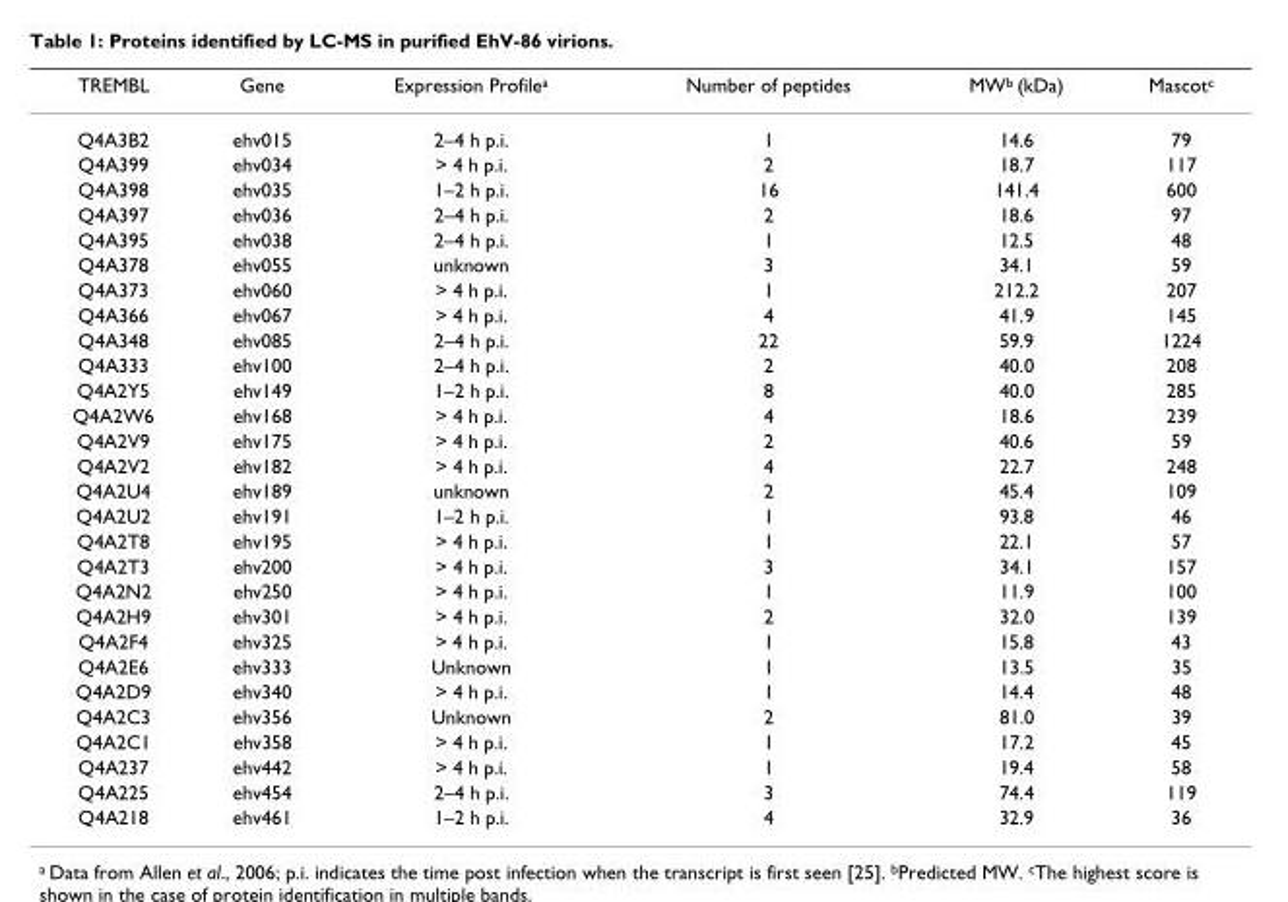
<table><thead><tr><td>TREMBL</td><td>Gene</td><td>Expression Profile<sup>a</sup></td><td>Number of peptides</td><td>MW<sup>b</sup> (kDa)</td><td>Mascot<sup>c</sup></td></tr></thead><tbody><tr><td>Q4A3B2</td><td>ehv015</td><td>2–4 h p.i.</td><td>1</td><td>14.6</td><td>79</td></tr><tr><td>Q4A399</td><td>ehv034</td><td>&gt; 4 h p.i.</td><td>2</td><td>18.7</td><td>117</td></tr><tr><td>Q4A398</td><td>ehv035</td><td>1–2 h p.i.</td><td>16</td><td>141.4</td><td>600</td></tr><tr><td>Q4A397</td><td>ehv036</td><td>2–4 h p.i.</td><td>2</td><td>18.6</td><td>97</td></tr><tr><td>Q4A395</td><td>ehv038</td><td>2–4 h p.i.</td><td>1</td><td>12.5</td><td>48</td></tr><tr><td>Q4A378</td><td>ehv055</td><td>unknown</td><td>3</td><td>34.1</td><td>59</td></tr><tr><td>Q4A373</td><td>ehv060</td><td>&gt; 4 h p.i.</td><td>1</td><td>212.2</td><td>207</td></tr><tr><td>Q4A366</td><td>ehv067</td><td>&gt; 4 h p.i.</td><td>4</td><td>41.9</td><td>145</td></tr><tr><td>Q4A348</td><td>ehv085</td><td>2–4 h p.i.</td><td>22</td><td>59.9</td><td>1224</td></tr><tr><td>Q4A333</td><td>ehv100</td><td>2–4 h p.i.</td><td>2</td><td>40.0</td><td>208</td></tr><tr><td>Q4A2Y5</td><td>ehv149</td><td>1–2 h p.i.</td><td>8</td><td>40.0</td><td>285</td></tr><tr><td>Q4A2W6</td><td>ehv168</td><td>&gt; 4 h p.i.</td><td>4</td><td>18.6</td><td>239</td></tr><tr><td>Q4A2V9</td><td>ehv175</td><td>&gt; 4 h p.i.</td><td>2</td><td>40.6</td><td>59</td></tr><tr><td>Q4A2V2</td><td>ehv182</td><td>&gt; 4 h p.i.</td><td>4</td><td>22.7</td><td>248</td></tr><tr><td>Q4A2U4</td><td>ehv189</td><td>unknown</td><td>2</td><td>45.4</td><td>109</td></tr><tr><td>Q4A2U2</td><td>ehv191</td><td>1–2 h p.i.</td><td>1</td><td>93.8</td><td>46</td></tr><tr><td>Q4A2T8</td><td>ehv195</td><td>&gt; 4 h p.i.</td><td>1</td><td>22.1</td><td>57</td></tr><tr><td>Q4A2T3</td><td>ehv200</td><td>&gt; 4 h p.i.</td><td>3</td><td>34.1</td><td>157</td></tr><tr><td>Q4A2N2</td><td>ehv250</td><td>&gt; 4 h p.i.</td><td>1</td><td>11.9</td><td>100</td></tr><tr><td>Q4A2H9</td><td>ehv301</td><td>&gt; 4 h p.i.</td><td>2</td><td>32.0</td><td>139</td></tr><tr><td>Q4A2F4</td><td>ehv325</td><td>&gt; 4 h p.i.</td><td>1</td><td>15.8</td><td>43</td></tr><tr><td>Q4A2E6</td><td>ehv333</td><td>Unknown</td><td>1</td><td>13.5</td><td>35</td></tr><tr><td>Q4A2D9</td><td>ehv340</td><td>&gt; 4 h p.i.</td><td>1</td><td>14.4</td><td>48</td></tr><tr><td>Q4A2C3</td><td>ehv356</td><td>Unknown</td><td>2</td><td>81.0</td><td>39</td></tr><tr><td>Q4A2C1</td><td>ehv358</td><td>&gt; 4 h p.i.</td><td>1</td><td>17.2</td><td>45</td></tr><tr><td>Q4A237</td><td>ehv442</td><td>&gt; 4 h p.i.</td><td>1</td><td>19.4</td><td>58</td></tr><tr><td>Q4A225</td><td>ehv454</td><td>2–4 h p.i.</td><td>3</td><td>74.4</td><td>119</td></tr><tr><td>Q4A218</td><td>ehv461</td><td>1–2 h p.i.</td><td>4</td><td>32.9</td><td>36</td></tr></tbody></table>